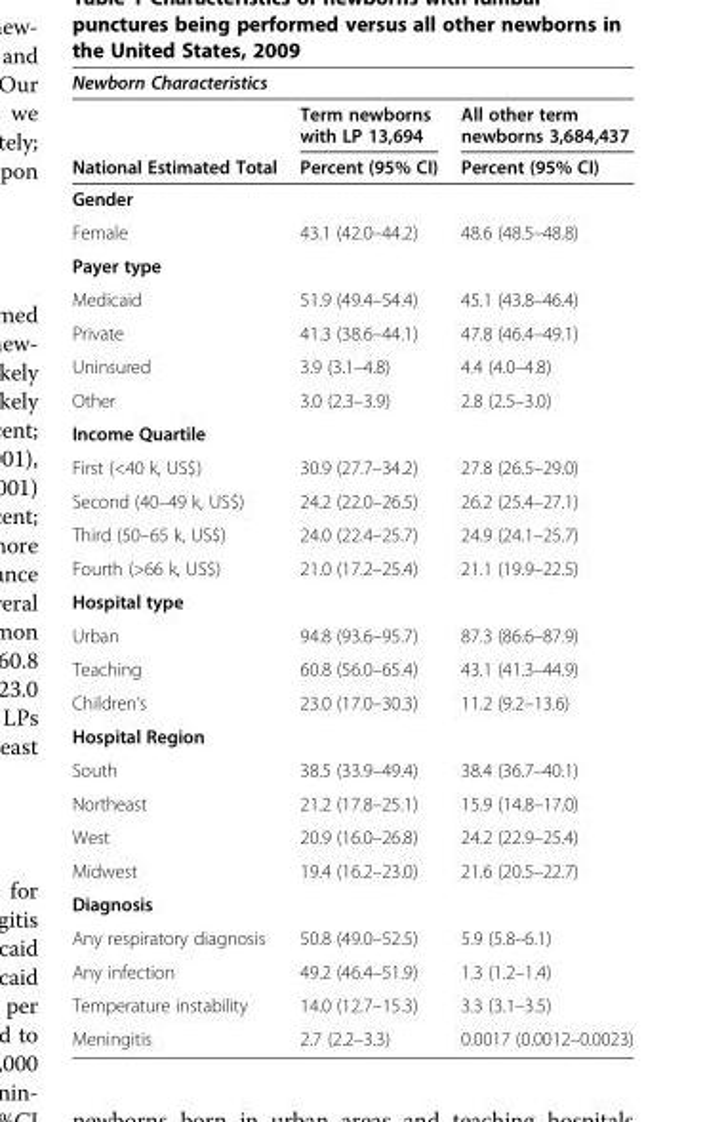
<table><thead><tr><td colspan="3">Newborn Characteristics</td></tr><tr><td rowspan="2">National Estimated Total</td><td rowspan="2">Term newborns with LP 13,694 Percent (95% CI)</td><td rowspan="2">All other term newborns 3,684,437 Percent (95% CI)</td></tr><tr></tr></thead><tbody><tr><td colspan="3">Gender</td></tr><tr><td>Female</td><td>43.1 (42.0–44.2)</td><td>48.6 (48.5–48.8)</td></tr><tr><td colspan="3">Payer type</td></tr><tr><td>Medicaid</td><td>51.9 (49.4–54.4)</td><td>45.1 (43.8–46.4)</td></tr><tr><td>Private</td><td>41.3 (38.6–44.1)</td><td>47.8 (46.4–49.1)</td></tr><tr><td>Uninsured</td><td>3.9 (3.1–4.8)</td><td>4.4 (4.0–4.8)</td></tr><tr><td>Other</td><td>3.0 (2.3–3.9)</td><td>2.8 (2.5–3.0)</td></tr><tr><td colspan="3">Income Quartile</td></tr><tr><td>First (&lt;40 k, US$)</td><td>30.9 (27.7–34.2)</td><td>27.8 (26.5–29.0)</td></tr><tr><td>Second (40–49 k, US$)</td><td>24.2 (22.0–26.5)</td><td>26.2 (25.4–27.1)</td></tr><tr><td>Third (50–65 k, US$)</td><td>24.0 (22.4–25.7)</td><td>24.9 (24.1–25.7)</td></tr><tr><td>Fourth (&gt;66 k, US$)</td><td>21.0 (17.2–25.4)</td><td>21.1 (19.9–22.5)</td></tr><tr><td colspan="3">Hospital type</td></tr><tr><td>Urban</td><td>94.8 (93.6–95.7)</td><td>87.3 (86.6–87.9)</td></tr><tr><td>Teaching</td><td>60.8 (56.0–65.4)</td><td>43.1 (41.3–44.9)</td></tr><tr><td>Children’s</td><td>23.0 (17.0–30.3)</td><td>11.2 (9.2–13.6)</td></tr><tr><td colspan="3">Hospital Region</td></tr><tr><td>South</td><td>38.5 (33.9–49.4)</td><td>38.4 (36.7–40.1)</td></tr><tr><td>Northeast</td><td>21.2 (17.8–25.1)</td><td>15.9 (14.8–17.0)</td></tr><tr><td>West</td><td>20.9 (16.0–26.8)</td><td>24.2 (22.9–25.4)</td></tr><tr><td>Midwest</td><td>19.4 (16.2–23.0)</td><td>21.6 (20.5–22.7)</td></tr><tr><td colspan="3">Diagnosis</td></tr><tr><td>Any respiratory diagnosis</td><td>50.8 (49.0–52.5)</td><td>5.9 (5.8–6.1)</td></tr><tr><td>Any infection</td><td>49.2 (46.4–51.9)</td><td>1.3 (1.2–1.4)</td></tr><tr><td>Temperature instability</td><td>14.0 (12.7–15.3)</td><td>3.3 (3.1–3.5)</td></tr><tr><td>Meningitis</td><td>2.7 (2.2–3.3)</td><td>0.0017 (0.0012–0.0023)</td></tr></tbody></table>